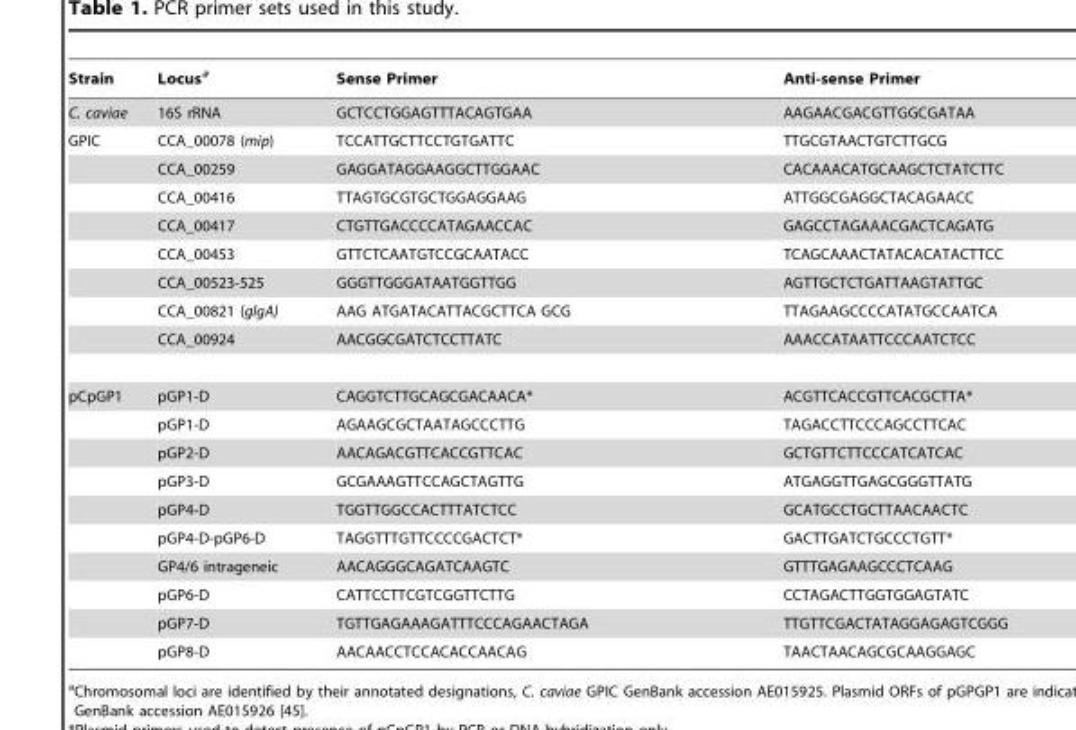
<table><thead><tr><td>Strain</td><td>Locus<sup>a</sup></td><td>Sense Primer</td><td>Anti-sense Primer</td></tr></thead><tbody><tr><td>C. caviae</td><td>16S rRNA</td><td>GCTCCTGGAGTTTACAGTGAA</td><td>AAGAACGACGTTGGCGATAA</td></tr><tr><td rowspan="8">GPIC</td><td>CCA_00078 (mip)</td><td>TCCATTGCTTCCTGTGATTC</td><td>TTGCGTAACTGTCTTGCG</td></tr><tr><td>CCA_00259</td><td>GAGGATAGGAAGGCTTGGAAC</td><td>CACAAACATGCAAGCTCTATCTTC</td></tr><tr><td>CCA_00416</td><td>TTAGTGCGTGCTGGAGGAAG</td><td>ATTGGCGAGGCTACAGAACC</td></tr><tr><td>CCA_00417</td><td>CTGTTGACCCCATAGAACCAC</td><td>GAGCCTAGAAACGACTCAGATG</td></tr><tr><td>CCA_00453</td><td>GTTCTCAATGTCCGCAATACC</td><td>TCAGCAAACTATACACATACTTCC</td></tr><tr><td>CCA_00523-525</td><td>GGGTTGGGATAATGGTTGG</td><td>AGTTGCTCTGATTAAGTATTGC</td></tr><tr><td>CCA_00821 (glgA)</td><td>AAG ATGATACATTACGCTTCA GCG</td><td>TTAGAAGCCCCATATGCCAATCA</td></tr><tr><td>CCA_00924</td><td>AACGGCGATCTCCTTATC</td><td>AAACCATAATTCCCAATCTCC</td></tr><tr><td rowspan="10">pCpGP1</td><td>pGP1-D</td><td>CAGGTCTTGCAGCGACAACA*</td><td>ACGTTCACCGTTCACGCTTA*</td></tr><tr><td>pGP1-D</td><td>AGAAGCGCTAATAGCCCTTG</td><td>TAGACCTTCCCAGCCTTCAC</td></tr><tr><td>pGP2-D</td><td>AACAGACGTTCACCGTTCAC</td><td>GCTGTTCTTCCCATCATCAC</td></tr><tr><td>pGP3-D</td><td>GCGAAAGTTCCAGCTAGTTG</td><td>ATGAGGTTGAGCGGGTTATG</td></tr><tr><td>pGP4-D</td><td>TGGTTGGCCACTTTATCTCC</td><td>GCATGCCTGCTTAACAACTC</td></tr><tr><td>pGP4-D-pGP6-D</td><td>TAGGTTTGTTCCCCGACTCT*</td><td>GACTTGATCTGCCCTGTT*</td></tr><tr><td>GP4/6 intrageneic</td><td>AACAGGGCAGATCAAGTC</td><td>GTTTGAGAAGCCCTCAAG</td></tr><tr><td>pGP6-D</td><td>CATTCCTTCGTCGGTTCTTG</td><td>CCTAGACTTGGTGGAGTATC</td></tr><tr><td>pGP7-D</td><td>TGTTGAGAAAGATTTCCCAGAACTAGA</td><td>TTGTTCGACTATAGGAGAGTCGGG</td></tr><tr><td>pGP8-D</td><td>AACAACCTCCACACCAACAG</td><td>TAACTAACAGCGCAAGGAGC</td></tr></tbody></table>